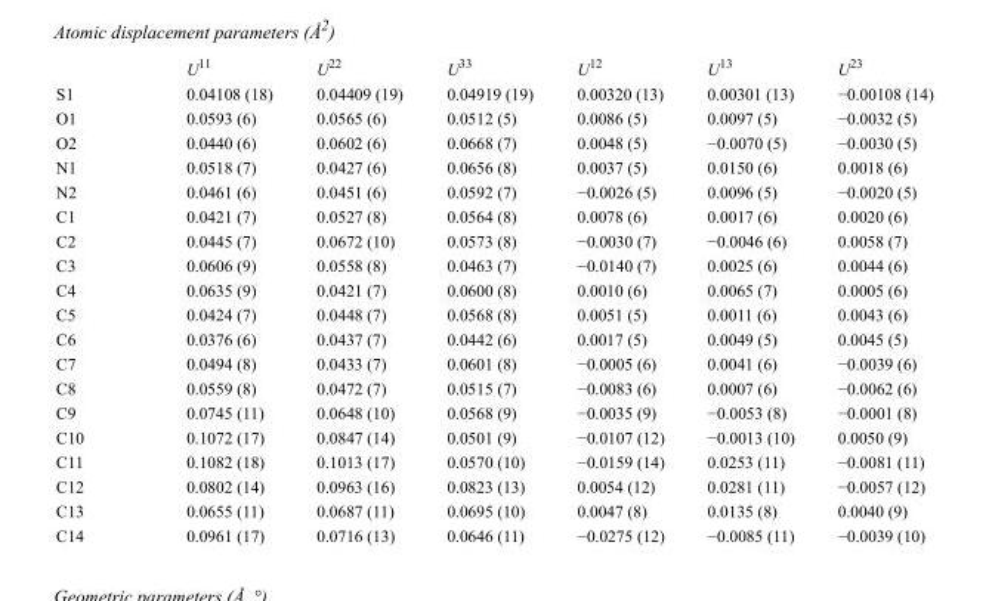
<table><thead><tr><td></td><td>U<sup>11</sup></td><td>U<sup>22</sup></td><td>U<sup>33</sup></td><td>U<sup>12</sup></td><td>U<sup>13</sup></td><td>U<sup>23</sup></td></tr></thead><tbody><tr><td>S1</td><td>0.04108 (18)</td><td>0.04409 (19)</td><td>0.04919 (19)</td><td>0.00320 (13)</td><td>0.00301 (13)</td><td>−0.00108 (14)</td></tr><tr><td>O1</td><td>0.0593 (6)</td><td>0.0565 (6)</td><td>0.0512 (5)</td><td>0.0086 (5)</td><td>0.0097 (5)</td><td>−0.0032 (5)</td></tr><tr><td>O2</td><td>0.0440 (6)</td><td>0.0602 (6)</td><td>0.0668 (7)</td><td>0.0048 (5)</td><td>−0.0070 (5)</td><td>−0.0030 (5)</td></tr><tr><td>N1</td><td>0.0518 (7)</td><td>0.0427 (6)</td><td>0.0656 (8)</td><td>0.0037 (5)</td><td>0.0150 (6)</td><td>0.0018 (6)</td></tr><tr><td>N2</td><td>0.0461 (6)</td><td>0.0451 (6)</td><td>0.0592 (7)</td><td>−0.0026 (5)</td><td>0.0096 (5)</td><td>−0.0020 (5)</td></tr><tr><td>C1</td><td>0.0421 (7)</td><td>0.0527 (8)</td><td>0.0564 (8)</td><td>0.0078 (6)</td><td>0.0017 (6)</td><td>0.0020 (6)</td></tr><tr><td>C2</td><td>0.0445 (7)</td><td>0.0672 (10)</td><td>0.0573 (8)</td><td>−0.0030 (7)</td><td>−0.0046 (6)</td><td>0.0058 (7)</td></tr><tr><td>C3</td><td>0.0606 (9)</td><td>0.0558 (8)</td><td>0.0463 (7)</td><td>−0.0140 (7)</td><td>0.0025 (6)</td><td>0.0044 (6)</td></tr><tr><td>C4</td><td>0.0635 (9)</td><td>0.0421 (7)</td><td>0.0600 (8)</td><td>0.0010 (6)</td><td>0.0065 (7)</td><td>0.0005 (6)</td></tr><tr><td>C5</td><td>0.0424 (7)</td><td>0.0448 (7)</td><td>0.0568 (8)</td><td>0.0051 (5)</td><td>0.0011 (6)</td><td>0.0043 (6)</td></tr><tr><td>C6</td><td>0.0376 (6)</td><td>0.0437 (7)</td><td>0.0442 (6)</td><td>0.0017 (5)</td><td>0.0049 (5)</td><td>0.0045 (5)</td></tr><tr><td>C7</td><td>0.0494 (8)</td><td>0.0433 (7)</td><td>0.0601 (8)</td><td>−0.0005 (6)</td><td>0.0041 (6)</td><td>−0.0039 (6)</td></tr><tr><td>C8</td><td>0.0559 (8)</td><td>0.0472 (7)</td><td>0.0515 (7)</td><td>−0.0083 (6)</td><td>0.0007 (6)</td><td>−0.0062 (6)</td></tr><tr><td>C9</td><td>0.0745 (11)</td><td>0.0648 (10)</td><td>0.0568 (9)</td><td>−0.0035 (9)</td><td>−0.0053 (8)</td><td>−0.0001 (8)</td></tr><tr><td>C10</td><td>0.1072 (17)</td><td>0.0847 (14)</td><td>0.0501 (9)</td><td>−0.0107 (12)</td><td>−0.0013 (10)</td><td>0.0050 (9)</td></tr><tr><td>C11</td><td>0.1082 (18)</td><td>0.1013 (17)</td><td>0.0570 (10)</td><td>−0.0159 (14)</td><td>0.0253 (11)</td><td>−0.0081 (11)</td></tr><tr><td>C12</td><td>0.0802 (14)</td><td>0.0963 (16)</td><td>0.0823 (13)</td><td>0.0054 (12)</td><td>0.0281 (11)</td><td>−0.0057 (12)</td></tr><tr><td>C13</td><td>0.0655 (11)</td><td>0.0687 (11)</td><td>0.0695 (10)</td><td>0.0047 (8)</td><td>0.0135 (8)</td><td>0.0040 (9)</td></tr><tr><td>C14</td><td>0.0961 (17)</td><td>0.0716 (13)</td><td>0.0646 (11)</td><td>−0.0275 (12)</td><td>−0.0085 (11)</td><td>−0.0039 (10)</td></tr></tbody></table>